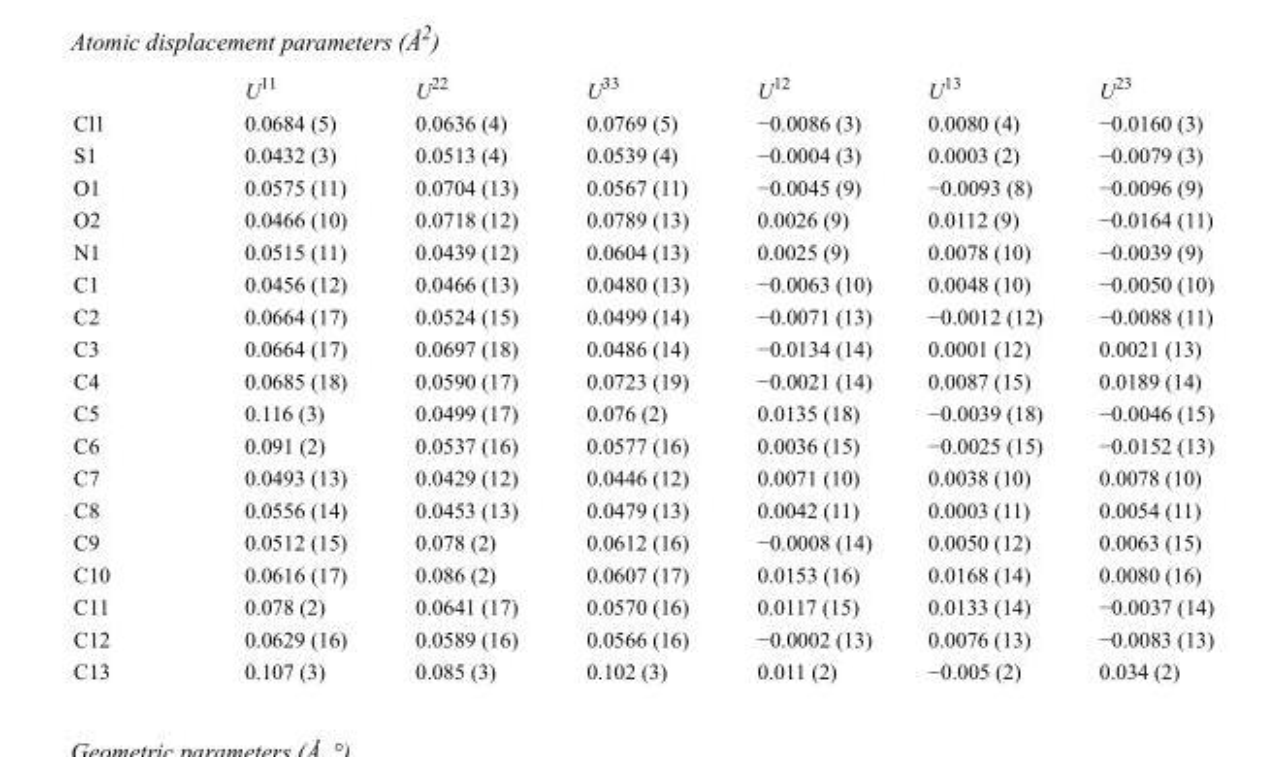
<table><thead><tr><td></td><td>U<sup>11</sup></td><td>U<sup>22</sup></td><td>U<sup>33</sup></td><td>U<sup>12</sup></td><td>U<sup>13</sup></td><td>U<sup>23</sup></td></tr></thead><tbody><tr><td>Cl1</td><td>0.0684 (5)</td><td>0.0636 (4)</td><td>0.0769 (5)</td><td>−0.0086 (3)</td><td>0.0080 (4)</td><td>−0.0160 (3)</td></tr><tr><td>S1</td><td>0.0432 (3)</td><td>0.0513 (4)</td><td>0.0539 (4)</td><td>−0.0004 (3)</td><td>0.0003 (2)</td><td>−0.0079 (3)</td></tr><tr><td>O1</td><td>0.0575 (11)</td><td>0.0704 (13)</td><td>0.0567 (11)</td><td>−0.0045 (9)</td><td>−0.0093 (8)</td><td>−0.0096 (9)</td></tr><tr><td>O2</td><td>0.0466 (10)</td><td>0.0718 (12)</td><td>0.0789 (13)</td><td>0.0026 (9)</td><td>0.0112 (9)</td><td>−0.0164 (11)</td></tr><tr><td>N1</td><td>0.0515 (11)</td><td>0.0439 (12)</td><td>0.0604 (13)</td><td>0.0025 (9)</td><td>0.0078 (10)</td><td>−0.0039 (9)</td></tr><tr><td>C1</td><td>0.0456 (12)</td><td>0.0466 (13)</td><td>0.0480 (13)</td><td>−0.0063 (10)</td><td>0.0048 (10)</td><td>−0.0050 (10)</td></tr><tr><td>C2</td><td>0.0664 (17)</td><td>0.0524 (15)</td><td>0.0499 (14)</td><td>−0.0071 (13)</td><td>−0.0012 (12)</td><td>−0.0088 (11)</td></tr><tr><td>C3</td><td>0.0664 (17)</td><td>0.0697 (18)</td><td>0.0486 (14)</td><td>−0.0134 (14)</td><td>0.0001 (12)</td><td>0.0021 (13)</td></tr><tr><td>C4</td><td>0.0685 (18)</td><td>0.0590 (17)</td><td>0.0723 (19)</td><td>−0.0021 (14)</td><td>0.0087 (15)</td><td>0.0189 (14)</td></tr><tr><td>C5</td><td>0.116 (3)</td><td>0.0499 (17)</td><td>0.076 (2)</td><td>0.0135 (18)</td><td>−0.0039 (18)</td><td>−0.0046 (15)</td></tr><tr><td>C6</td><td>0.091 (2)</td><td>0.0537 (16)</td><td>0.0577 (16)</td><td>0.0036 (15)</td><td>−0.0025 (15)</td><td>−0.0152 (13)</td></tr><tr><td>C7</td><td>0.0493 (13)</td><td>0.0429 (12)</td><td>0.0446 (12)</td><td>0.0071 (10)</td><td>0.0038 (10)</td><td>0.0078 (10)</td></tr><tr><td>C8</td><td>0.0556 (14)</td><td>0.0453 (13)</td><td>0.0479 (13)</td><td>0.0042 (11)</td><td>0.0003 (11)</td><td>0.0054 (11)</td></tr><tr><td>C9</td><td>0.0512 (15)</td><td>0.078 (2)</td><td>0.0612 (16)</td><td>−0.0008 (14)</td><td>0.0050 (12)</td><td>0.0063 (15)</td></tr><tr><td>C10</td><td>0.0616 (17)</td><td>0.086 (2)</td><td>0.0607 (17)</td><td>0.0153 (16)</td><td>0.0168 (14)</td><td>0.0080 (16)</td></tr><tr><td>C11</td><td>0.078 (2)</td><td>0.0641 (17)</td><td>0.0570 (16)</td><td>0.0117 (15)</td><td>0.0133 (14)</td><td>−0.0037 (14)</td></tr><tr><td>C12</td><td>0.0629 (16)</td><td>0.0589 (16)</td><td>0.0566 (16)</td><td>−0.0002 (13)</td><td>0.0076 (13)</td><td>−0.0083 (13)</td></tr><tr><td>C13</td><td>0.107 (3)</td><td>0.085 (3)</td><td>0.102 (3)</td><td>0.011 (2)</td><td>−0.005 (2)</td><td>0.034 (2)</td></tr></tbody></table>